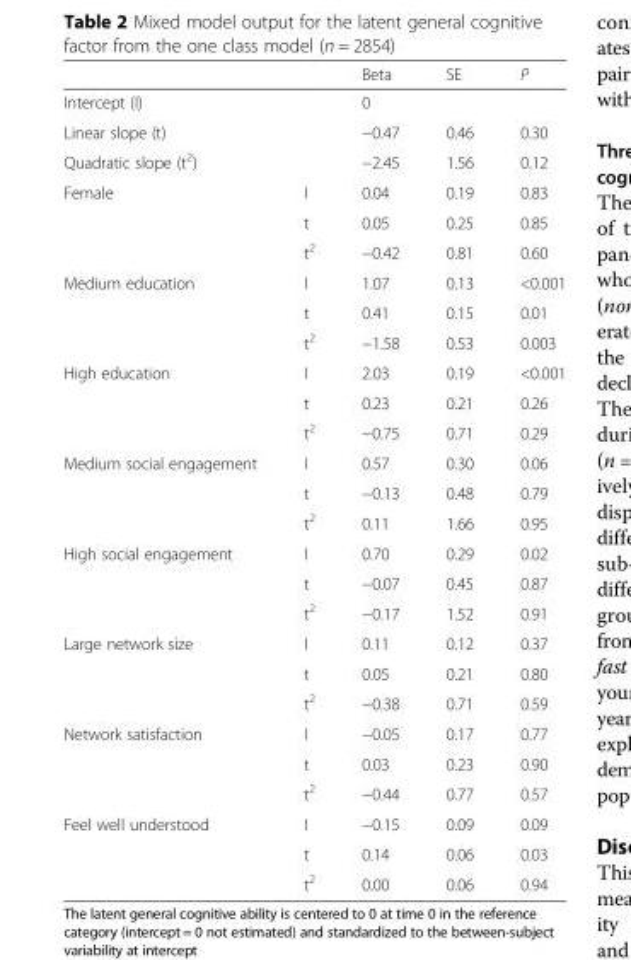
<table><thead><tr><td></td><td></td><td>Beta</td><td>SE</td><td>P</td></tr></thead><tbody><tr><td>Intercept (I)</td><td></td><td>0</td><td></td><td></td></tr><tr><td>Linear slope (t)</td><td></td><td>−0.47</td><td>0.46</td><td>0.30</td></tr><tr><td>Quadratic slope (t<sup>2</sup>)</td><td></td><td>−2.45</td><td>1.56</td><td>0.12</td></tr><tr><td rowspan="3">Female</td><td>I</td><td>0.04</td><td>0.19</td><td>0.83</td></tr><tr><td>t</td><td>0.05</td><td>0.25</td><td>0.85</td></tr><tr><td>t<sup>2</sup></td><td>−0.42</td><td>0.81</td><td>0.60</td></tr><tr><td rowspan="3">Medium education</td><td>I</td><td>1.07</td><td>0.13</td><td>&lt;0.001</td></tr><tr><td>t</td><td>0.41</td><td>0.15</td><td>0.01</td></tr><tr><td>t<sup>2</sup></td><td>−1.58</td><td>0.53</td><td>0.003</td></tr><tr><td rowspan="3">High education</td><td>I</td><td>2.03</td><td>0.19</td><td>&lt;0.001</td></tr><tr><td>t</td><td>0.23</td><td>0.21</td><td>0.26</td></tr><tr><td>t<sup>2</sup></td><td>−0.75</td><td>0.71</td><td>0.29</td></tr><tr><td rowspan="3">Medium social engagement</td><td>I</td><td>0.57</td><td>0.30</td><td>0.06</td></tr><tr><td>t</td><td>−0.13</td><td>0.48</td><td>0.79</td></tr><tr><td>t<sup>2</sup></td><td>0.11</td><td>1.66</td><td>0.95</td></tr><tr><td rowspan="3">High social engagement</td><td>I</td><td>0.70</td><td>0.29</td><td>0.02</td></tr><tr><td>t</td><td>−0.07</td><td>0.45</td><td>0.87</td></tr><tr><td>t<sup>2</sup></td><td>−0.17</td><td>1.52</td><td>0.91</td></tr><tr><td rowspan="3">Large network size</td><td>I</td><td>0.11</td><td>0.12</td><td>0.37</td></tr><tr><td>t</td><td>0.05</td><td>0.21</td><td>0.80</td></tr><tr><td>t<sup>2</sup></td><td>−0.38</td><td>0.71</td><td>0.59</td></tr><tr><td rowspan="3">Network satisfaction</td><td>I</td><td>−0.05</td><td>0.17</td><td>0.77</td></tr><tr><td>t</td><td>0.03</td><td>0.23</td><td>0.90</td></tr><tr><td>t<sup>2</sup></td><td>−0.44</td><td>0.77</td><td>0.57</td></tr><tr><td rowspan="3">Feel well understood</td><td>I</td><td>−0.15</td><td>0.09</td><td>0.09</td></tr><tr><td>t</td><td>0.14</td><td>0.06</td><td>0.03</td></tr><tr><td>t<sup>2</sup></td><td>0.00</td><td>0.06</td><td>0.94</td></tr></tbody></table>